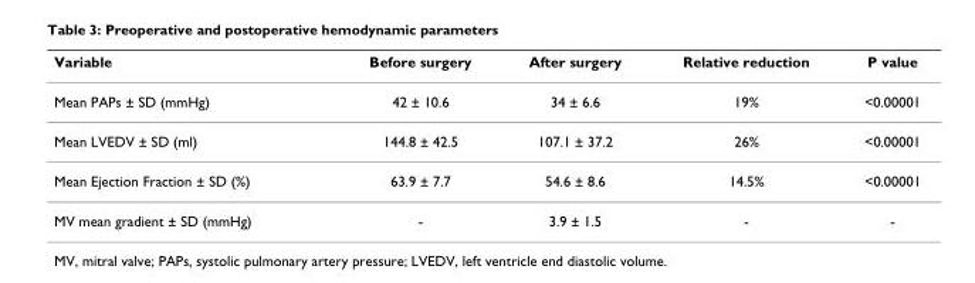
<table><thead><tr><td>Variable</td><td>Before surgery</td><td>After surgery</td><td>Relative reduction</td><td>P value</td></tr></thead><tbody><tr><td>Mean PAPs ± SD (mmHg)</td><td>42 ± 10.6</td><td>34 ± 6.6</td><td>19%</td><td>&lt;0.00001</td></tr><tr><td>Mean LVEDV ± SD (ml)</td><td>144.8 ± 42.5</td><td>107.1 ± 37.2</td><td>26%</td><td>&lt;0.00001</td></tr><tr><td>Mean Ejection Fraction ± SD (%)</td><td>63.9 ± 7.7</td><td>54.6 ± 8.6</td><td>14.5%</td><td>&lt;0.00001</td></tr><tr><td>MV mean gradient ± SD (mmHg)</td><td>-</td><td>3.9 ± 1.5</td><td>-</td><td>-</td></tr></tbody></table>